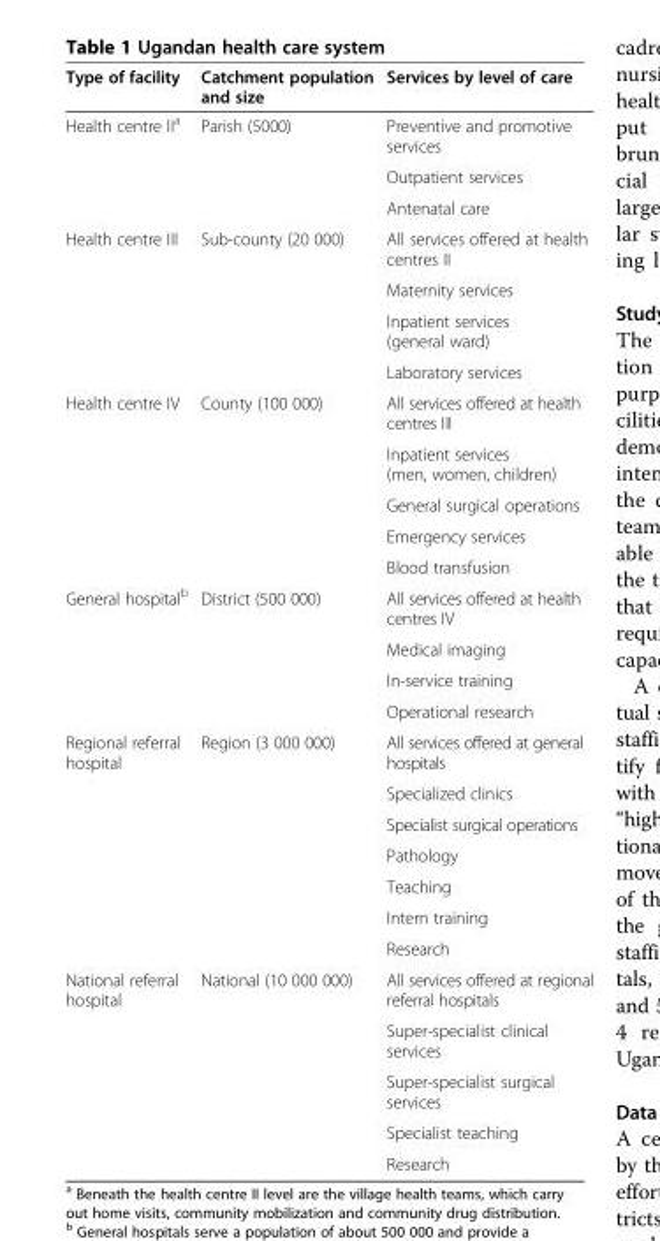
<table><thead><tr><td>Type of facility</td><td>Catchment population and size</td><td>Services by level of care</td></tr></thead><tbody><tr><td rowspan="3">Health centre II<sup>a</sup></td><td rowspan="3">Parish (5000)</td><td>Preventive and promotive services</td></tr><tr><td>Outpatient services</td></tr><tr><td>Antenatal care</td></tr><tr><td rowspan="4">Health centre III</td><td rowspan="4">Sub-county (20 000)</td><td>All services offered at health centres II</td></tr><tr><td>Maternity services</td></tr><tr><td>Inpatient services (general ward)</td></tr><tr><td>Laboratory services</td></tr><tr><td rowspan="5">Health centre IV</td><td rowspan="5">County (100 000)</td><td>All services offered at health centres III</td></tr><tr><td>Inpatient services (men, women, children)</td></tr><tr><td>General surgical operations</td></tr><tr><td>Emergency services</td></tr><tr><td>Blood transfusion</td></tr><tr><td rowspan="4">General hospital<sup>b</sup></td><td rowspan="4">District (500 000)</td><td>All services offered at health centres IV</td></tr><tr><td>Medical imaging</td></tr><tr><td>In-service training</td></tr><tr><td>Operational research</td></tr><tr><td rowspan="7">Regional referral hospital</td><td rowspan="7">Region (3 000 000)</td><td>All services offered at general hospitals</td></tr><tr><td>Specialized clinics</td></tr><tr><td>Specialist surgical operations</td></tr><tr><td>Pathology</td></tr><tr><td>Teaching</td></tr><tr><td>Intern training</td></tr><tr><td>Research</td></tr><tr><td rowspan="5">National referral hospital</td><td rowspan="5">National (10 000 000)</td><td>All services offered at regional referral hospitals</td></tr><tr><td>Super-specialist clinical services</td></tr><tr><td>Super-specialist surgical services</td></tr><tr><td>Specialist teaching</td></tr><tr><td>Research</td></tr></tbody></table>